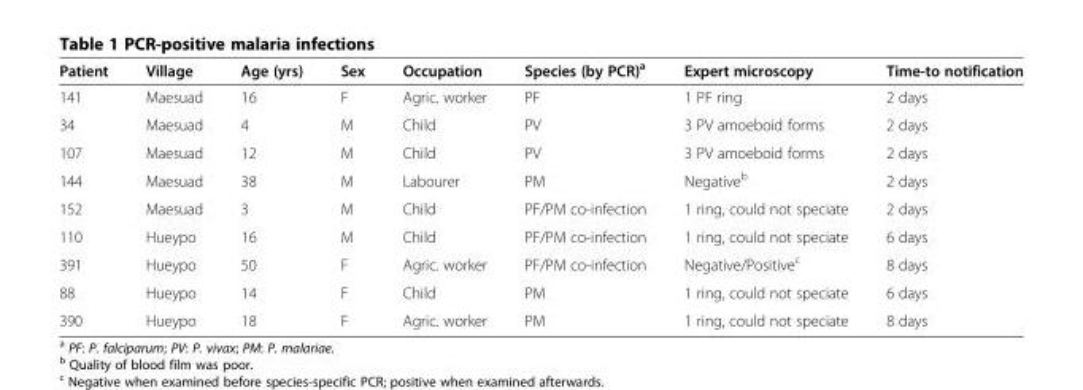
<table><thead><tr><td>Patient</td><td>Village</td><td>Age (yrs)</td><td>Sex</td><td>Occupation</td><td>Species (by PCR)<sup>a</sup></td><td>Expert microscopy</td><td>Time-to notification</td></tr></thead><tbody><tr><td>141</td><td>Maesuad</td><td>16</td><td>F</td><td>Agric. worker</td><td>PF</td><td>1 PF ring</td><td>2 days</td></tr><tr><td>34</td><td>Maesuad</td><td>4</td><td>M</td><td>Child</td><td>PV</td><td>3 PV amoeboid forms</td><td>2 days</td></tr><tr><td>107</td><td>Maesuad</td><td>12</td><td>M</td><td>Child</td><td>PV</td><td>3 PV amoeboid forms</td><td>2 days</td></tr><tr><td>144</td><td>Maesuad</td><td>38</td><td>M</td><td>Labourer</td><td>PM</td><td>Negative<sup>b</sup></td><td>2 days</td></tr><tr><td>152</td><td>Maesuad</td><td>3</td><td>M</td><td>Child</td><td>PF/PM co-infection</td><td>1 ring, could not speciate</td><td>2 days</td></tr><tr><td>110</td><td>Hueypo</td><td>16</td><td>M</td><td>Child</td><td>PF/PM co-infection</td><td>1 ring, could not speciate</td><td>6 days</td></tr><tr><td>391</td><td>Hueypo</td><td>50</td><td>F</td><td>Agric. worker</td><td>PF/PM co-infection</td><td>Negative/Positive<sup>c</sup></td><td>8 days</td></tr><tr><td>88</td><td>Hueypo</td><td>14</td><td>F</td><td>Child</td><td>PM</td><td>1 ring, could not speciate</td><td>6 days</td></tr><tr><td>390</td><td>Hueypo</td><td>18</td><td>F</td><td>Agric. worker</td><td>PM</td><td>1 ring, could not speciate</td><td>8 days</td></tr></tbody></table>